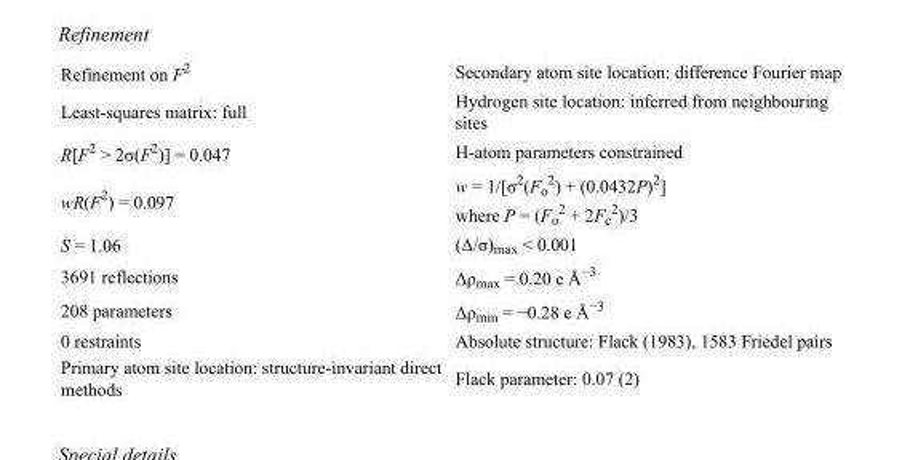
<table><tbody><tr><td>Refinement on F<sup>2</sup></td><td>Secondary atom site location: difference Fourier map</td></tr><tr><td>Least-squares matrix: full</td><td>Hydrogen site location: inferred from neighbouring sites</td></tr><tr><td>R[F<sup>2</sup> &gt; 2σ(F<sup>2</sup>)] = 0.047</td><td>H-atom parameters constrained</td></tr><tr><td>wR(F<sup>2</sup>) = 0.097</td><td>w = 1/[σ<sup>2</sup>(F<sub>o</sub> <sup>2</sup>) + (0.0432P)<sup>2</sup>] where P = (F<sub>o</sub> <sup>2</sup> + 2F<sub>c</sub> <sup>2</sup>)/3</td></tr><tr><td>S = 1.06</td><td>(Δ/σ)<sub>max</sub> &lt; 0.001</td></tr><tr><td>3691 reflections</td><td>Δρ<sub>max</sub> = 0.20 e Å<sup>−3</sup></td></tr><tr><td>208 parameters</td><td>Δρ<sub>min</sub> = −0.28 e Å<sup>−3</sup></td></tr><tr><td>0 restraints</td><td>Absolute structure: Flack (1983), 1583 Friedel pairs</td></tr><tr><td>Primary atom site location: structure-invariant direct methods</td><td>Flack parameter: 0.07 (2)</td></tr></tbody></table>